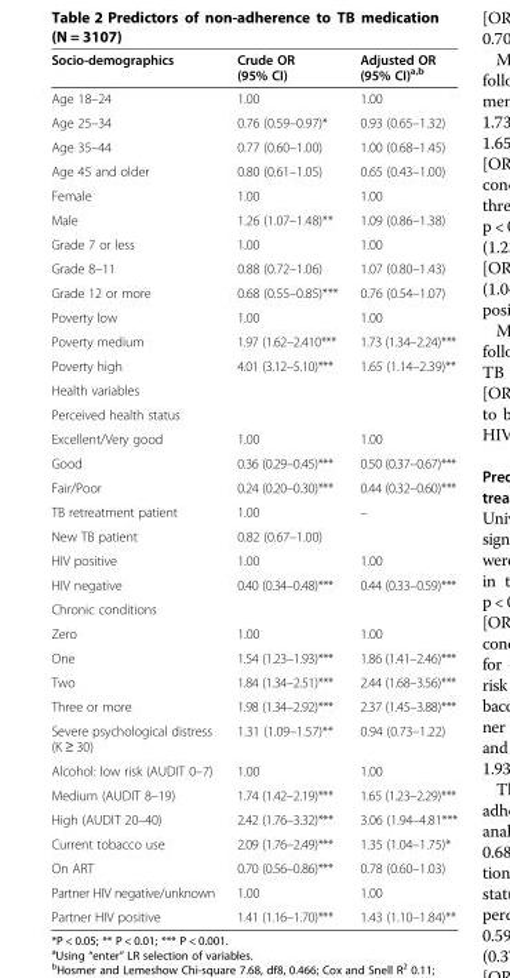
<table><thead><tr><td>Socio-demographics</td><td>Crude OR (95% CI)</td><td>Adjusted OR (95% CI)<sup>a,b</sup></td></tr></thead><tbody><tr><td>Age 18–24</td><td>1.00</td><td>1.00</td></tr><tr><td>Age 25–34</td><td>0.76 (0.59–0.97)*</td><td>0.93 (0.65–1.32)</td></tr><tr><td>Age 35–44</td><td>0.77 (0.60–1.00)</td><td>1.00 (0.68–1.45)</td></tr><tr><td>Age 45 and older</td><td>0.80 (0.61–1.05)</td><td>0.65 (0.43–1.00)</td></tr><tr><td>Female</td><td>1.00</td><td>1.00</td></tr><tr><td>Male</td><td>1.26 (1.07–1.48)**</td><td>1.09 (0.86–1.38)</td></tr><tr><td>Grade 7 or less</td><td>1.00</td><td>1.00</td></tr><tr><td>Grade 8–11</td><td>0.88 (0.72–1.06)</td><td>1.07 (0.80–1.43)</td></tr><tr><td>Grade 12 or more</td><td>0.68 (0.55–0.85)***</td><td>0.76 (0.54–1.07)</td></tr><tr><td>Poverty low</td><td>1.00</td><td>1.00</td></tr><tr><td>Poverty medium</td><td>1.97 (1.62–2.410***</td><td>1.73 (1.34–2.24)***</td></tr><tr><td>Poverty high</td><td>4.01 (3.12–5.10)***</td><td>1.65 (1.14–2.39)**</td></tr><tr><td colspan="3">Health variables</td></tr><tr><td colspan="3">Perceived health status</td></tr><tr><td>Excellent/Very good</td><td>1.00</td><td>1.00</td></tr><tr><td>Good</td><td>0.36 (0.29–0.45)***</td><td>0.50 (0.37–0.67)***</td></tr><tr><td>Fair/Poor</td><td>0.24 (0.20–0.30)***</td><td>0.44 (0.32–0.60)***</td></tr><tr><td>TB retreatment patient</td><td>1.00</td><td>–</td></tr><tr><td>New TB patient</td><td>0.82 (0.67–1.00)</td><td></td></tr><tr><td>HIV positive</td><td>1.00</td><td>1.00</td></tr><tr><td>HIV negative</td><td>0.40 (0.34–0.48)***</td><td>0.44 (0.33–0.59)***</td></tr><tr><td colspan="3">Chronic conditions</td></tr><tr><td>Zero</td><td>1.00</td><td>1.00</td></tr><tr><td>One</td><td>1.54 (1.23–1.93)***</td><td>1.86 (1.41–2.46)***</td></tr><tr><td>Two</td><td>1.84 (1.34–2.51)***</td><td>2.44 (1.68–3.56)***</td></tr><tr><td>Three or more</td><td>1.98 (1.34–2.92)***</td><td>2.37 (1.45–3.88)***</td></tr><tr><td>Severe psychological distress (K ≥ 30)</td><td>1.31 (1.09–1.57)**</td><td>0.94 (0.73–1.22)</td></tr><tr><td>Alcohol: low risk (AUDIT 0–7)</td><td>1.00</td><td>1.00</td></tr><tr><td>Medium (AUDIT 8–19)</td><td>1.74 (1.42–2.19)***</td><td>1.65 (1.23–2.29)***</td></tr><tr><td>High (AUDIT 20–40)</td><td>2.42 (1.76–3.32)***</td><td>3.06 (1.94–4.81***</td></tr><tr><td>Current tobacco use</td><td>2.09 (1.76–2.49)***</td><td>1.35 (1.04–1.75)*</td></tr><tr><td>On ART</td><td>0.70 (0.56–0.86)***</td><td>0.78 (0.60–1.03)</td></tr><tr><td>Partner HIV negative/unknown</td><td>1.00</td><td>1.00</td></tr><tr><td>Partner HIV positive</td><td>1.41 (1.16–1.70)***</td><td>1.43 (1.10–1.84)**</td></tr></tbody></table>